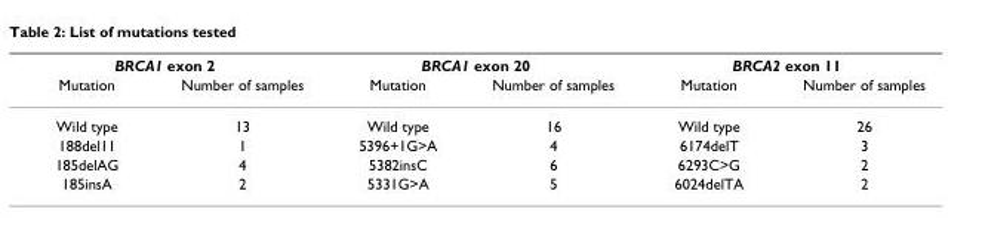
<table><thead><tr><td colspan="2">BRCA1 exon 2</td><td colspan="2">BRCA1 exon 20</td><td colspan="2">BRCA2 exon 11</td></tr><tr><td>Mutation</td><td>Number of samples</td><td>Mutation</td><td>Number of samples</td><td>Mutation</td><td>Number of samples</td></tr></thead><tbody><tr><td>Wild type</td><td>13</td><td>Wild type</td><td>16</td><td>Wild type</td><td>26</td></tr><tr><td>188del11</td><td>1</td><td>5396+1G&gt;A</td><td>4</td><td>6174delT</td><td>3</td></tr><tr><td>185delAG</td><td>4</td><td>5382insC</td><td>6</td><td>6293C&gt;G</td><td>2</td></tr><tr><td>185insA</td><td>2</td><td>5331G&gt;A</td><td>5</td><td>6024delTA</td><td>2</td></tr></tbody></table>